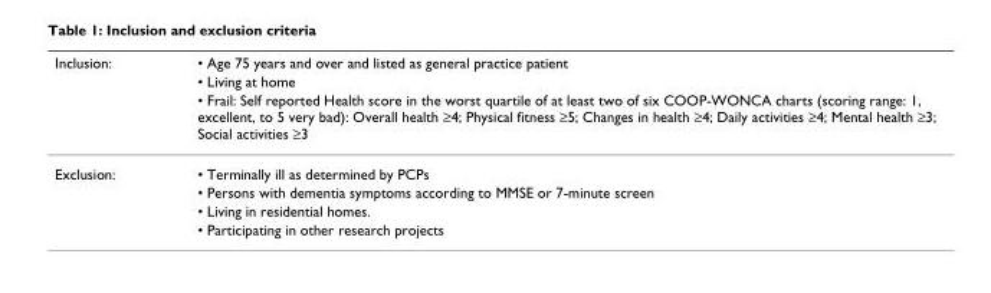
<table><thead><tr><td rowspan="3">Inclusion:</td><td rowspan="3">• Age 75 years and over and listed as general practice patient • Living at home • Frail: Self reported Health score in the worst quartile of at least two of six COOP-WONCA charts (scoring range: 1, excellent, to 5 very bad): Overall health ≥4; Physical fitness ≥5; Changes in health ≥4; Daily activities ≥4; Mental health ≥3; Social activities ≥3</td></tr><tr></tr><tr></tr></thead><tbody><tr><td rowspan="4">Exclusion:</td><td>• Terminally ill as determined by PCPs</td></tr><tr><td>• Persons with dementia symptoms according to MMSE or 7-minute screen</td></tr><tr><td>• Living in residential homes.</td></tr><tr><td>• Participating in other research projects</td></tr></tbody></table>